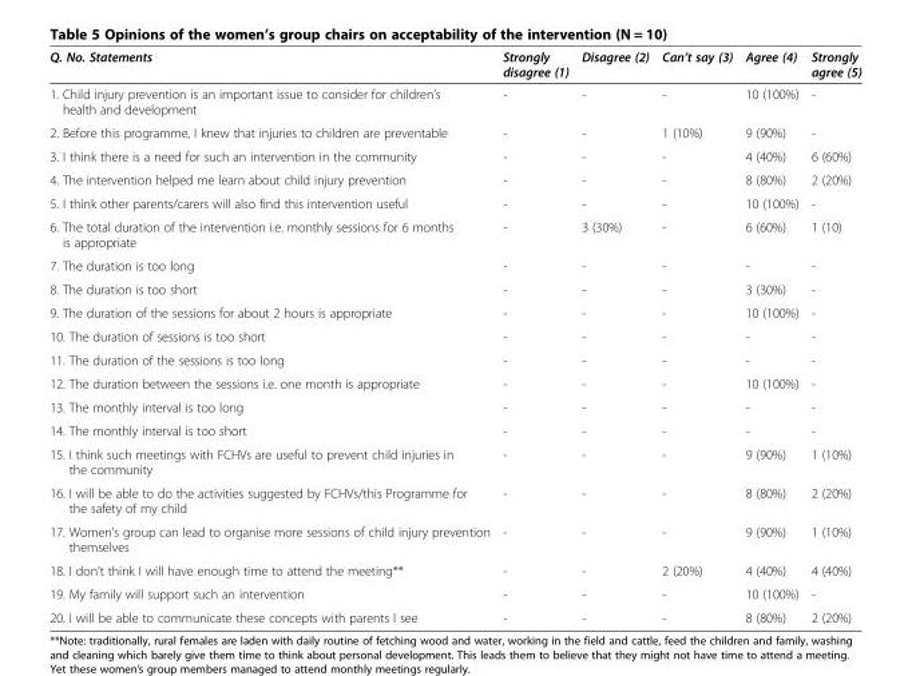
<table><thead><tr><td>Q. No. Statements</td><td>Strongly disagree (1)</td><td>Disagree (2)</td><td>Can’t say (3)</td><td>Agree (4)</td><td>Strongly agree (5)</td></tr></thead><tbody><tr><td>1. Child injury prevention is an important issue to consider for children’s health and development</td><td>-</td><td>-</td><td>-</td><td>10 (100%)</td><td>-</td></tr><tr><td>2. Before this programme, I knew that injuries to children are preventable</td><td>-</td><td>-</td><td>1 (10%)</td><td>9 (90%)</td><td>-</td></tr><tr><td>3. I think there is a need for such an intervention in the community</td><td>-</td><td>-</td><td>-</td><td>4 (40%)</td><td>6 (60%)</td></tr><tr><td>4. The intervention helped me learn about child injury prevention</td><td>-</td><td>-</td><td>-</td><td>8 (80%)</td><td>2 (20%)</td></tr><tr><td>5. I think other parents/carers will also find this intervention useful</td><td>-</td><td>-</td><td>-</td><td>10 (100%)</td><td>-</td></tr><tr><td>6. The total duration of the intervention i.e. monthly sessions for 6 months is appropriate</td><td>-</td><td>3 (30%)</td><td>-</td><td>6 (60%)</td><td>1 (10)</td></tr><tr><td>7. The duration is too long</td><td>-</td><td>-</td><td>-</td><td>-</td><td>-</td></tr><tr><td>8. The duration is too short</td><td>-</td><td>-</td><td>-</td><td>3 (30%)</td><td>-</td></tr><tr><td>9. The duration of the sessions for about 2 hours is appropriate</td><td>-</td><td>-</td><td>-</td><td>10 (100%)</td><td>-</td></tr><tr><td>10. The duration of sessions is too short</td><td>-</td><td>-</td><td>-</td><td>-</td><td>-</td></tr><tr><td>11. The duration of the sessions is too long</td><td>-</td><td>-</td><td>-</td><td>-</td><td>-</td></tr><tr><td>12. The duration between the sessions i.e. one month is appropriate</td><td>-</td><td>-</td><td>-</td><td>10 (100%)</td><td>-</td></tr><tr><td>13. The monthly interval is too long</td><td>-</td><td>-</td><td>-</td><td>-</td><td>-</td></tr><tr><td>14. The monthly interval is too short</td><td>-</td><td>-</td><td>-</td><td>-</td><td>-</td></tr><tr><td>15. I think such meetings with FCHVs are useful to prevent child injuries in the community</td><td>-</td><td>-</td><td>-</td><td>9 (90%)</td><td>1 (10%)</td></tr><tr><td>16. I will be able to do the activities suggested by FCHVs/this Programme for the safety of my child</td><td>-</td><td>-</td><td>-</td><td>8 (80%)</td><td>2 (20%)</td></tr><tr><td>17. Women’s group can lead to organise more sessions of child injury prevention themselves</td><td>-</td><td>-</td><td>-</td><td>9 (90%)</td><td>1 (10%)</td></tr><tr><td>18. I don’t think I will have enough time to attend the meeting**</td><td>-</td><td>-</td><td>2 (20%)</td><td>4 (40%)</td><td>4 (40%)</td></tr><tr><td>19. My family will support such an intervention</td><td>-</td><td>-</td><td>-</td><td>10 (100%)</td><td>-</td></tr><tr><td>20. I will be able to communicate these concepts with parents I see</td><td>-</td><td>-</td><td>-</td><td>8 (80%)</td><td>2 (20%)</td></tr></tbody></table>